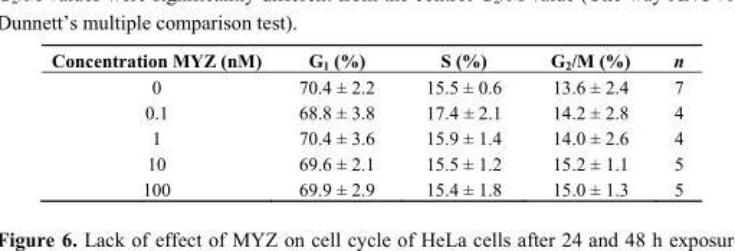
<table><thead><tr><td>Concentration MYZ (nM)</td><td>G<sub>1</sub> (%)</td><td>S (%)</td><td>G<sub>2</sub>/M (%)</td><td>n</td></tr></thead><tbody><tr><td>0</td><td>70.4 ± 2.2</td><td>15.5 ± 0.6</td><td>13.6 ± 2.4</td><td>7</td></tr><tr><td>0.1</td><td>68.8 ± 3.8</td><td>17.4 ± 2.1</td><td>14.2 ± 2.8</td><td>4</td></tr><tr><td>1</td><td>70.4 ± 3.6</td><td>15.9 ± 1.4</td><td>14.0 ± 2.6</td><td>4</td></tr><tr><td>10</td><td>69.6 ± 2.1</td><td>15.5 ± 1.2</td><td>15.2 ± 1.1</td><td>5</td></tr><tr><td>100</td><td>69.9 ± 2.9</td><td>15.4 ± 1.8</td><td>15.0 ± 1.3</td><td>5</td></tr></tbody></table>